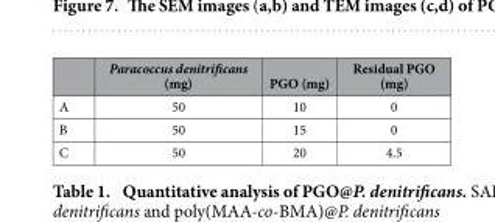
<table><thead><tr><td></td><td>Paracoccus denitrificans (mg)</td><td>PGO (mg)</td><td>Residual PGO (mg)</td></tr></thead><tbody><tr><td>A</td><td>50</td><td>10</td><td>0</td></tr><tr><td>B</td><td>50</td><td>15</td><td>0</td></tr><tr><td>C</td><td>50</td><td>20</td><td>4.5</td></tr></tbody></table>